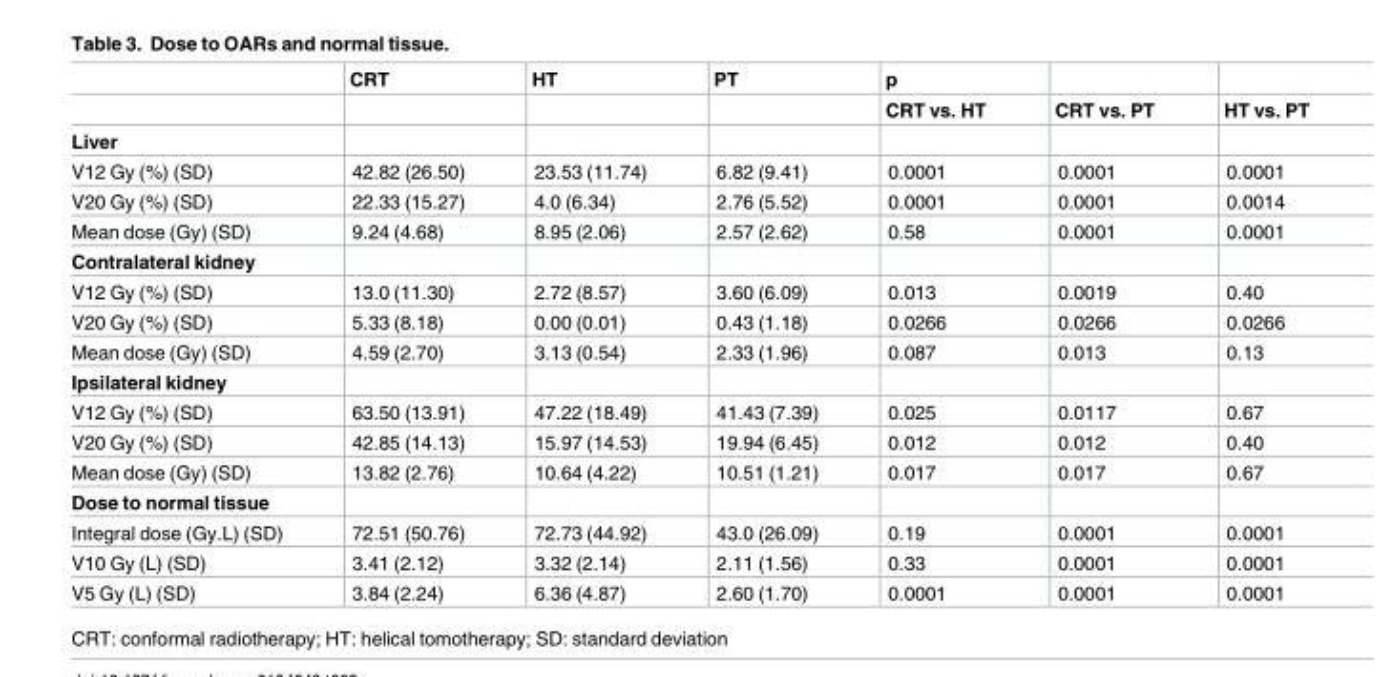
<table><thead><tr><td rowspan="2"></td><td rowspan="2">CRT</td><td rowspan="2">HT</td><td rowspan="2">PT</td><td rowspan="2">p CRT vs. HT</td><td rowspan="2">CRT vs. PT</td><td rowspan="2">HT vs. PT</td></tr><tr></tr></thead><tbody><tr><td colspan="7">Liver</td></tr><tr><td>V12 Gy (%) (SD)</td><td>42.82 (26.50)</td><td>23.53 (11.74)</td><td>6.82 (9.41)</td><td>0.0001</td><td>0.0001</td><td>0.0001</td></tr><tr><td>V20 Gy (%) (SD)</td><td>22.33 (15.27)</td><td>4.0 (6.34)</td><td>2.76 (5.52)</td><td>0.0001</td><td>0.0001</td><td>0.0014</td></tr><tr><td>Mean dose (Gy) (SD)</td><td>9.24 (4.68)</td><td>8.95 (2.06)</td><td>2.57 (2.62)</td><td>0.58</td><td>0.0001</td><td>0.0001</td></tr><tr><td colspan="7">Contralateral kidney</td></tr><tr><td>V12 Gy (%) (SD)</td><td>13.0 (11.30)</td><td>2.72 (8.57)</td><td>3.60 (6.09)</td><td>0.013</td><td>0.0019</td><td>0.40</td></tr><tr><td>V20 Gy (%) (SD)</td><td>5.33 (8.18)</td><td>0.00 (0.01)</td><td>0.43 (1.18)</td><td>0.0266</td><td>0.0266</td><td>0.0266</td></tr><tr><td>Mean dose (Gy) (SD)</td><td>4.59 (2.70)</td><td>3.13 (0.54)</td><td>2.33 (1.96)</td><td>0.087</td><td>0.013</td><td>0.13</td></tr><tr><td colspan="7">Ipsilateral kidney</td></tr><tr><td>V12 Gy (%) (SD)</td><td>63.50 (13.91)</td><td>47.22 (18.49)</td><td>41.43 (7.39)</td><td>0.025</td><td>0.0117</td><td>0.67</td></tr><tr><td>V20 Gy (%) (SD)</td><td>42.85 (14.13)</td><td>15.97 (14.53)</td><td>19.94 (6.45)</td><td>0.012</td><td>0.012</td><td>0.40</td></tr><tr><td>Mean dose (Gy) (SD)</td><td>13.82 (2.76)</td><td>10.64 (4.22)</td><td>10.51 (1.21)</td><td>0.017</td><td>0.017</td><td>0.67</td></tr><tr><td colspan="7">Dose to normal tissue</td></tr><tr><td>Integral dose (Gy.L) (SD)</td><td>72.51 (50.76)</td><td>72.73 (44.92)</td><td>43.0 (26.09)</td><td>0.19</td><td>0.0001</td><td>0.0001</td></tr><tr><td>V10 Gy (L) (SD)</td><td>3.41 (2.12)</td><td>3.32 (2.14)</td><td>2.11 (1.56)</td><td>0.33</td><td>0.0001</td><td>0.0001</td></tr><tr><td>V5 Gy (L) (SD)</td><td>3.84 (2.24)</td><td>6.36 (4.87)</td><td>2.60 (1.70)</td><td>0.0001</td><td>0.0001</td><td>0.0001</td></tr></tbody></table>